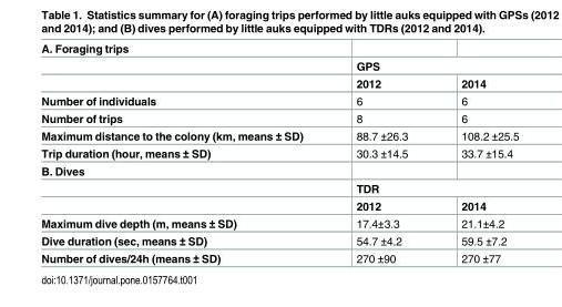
<table><tbody><tr><td colspan="3">A. Foraging trips</td></tr><tr><td></td><td colspan="2">GPS</td></tr><tr><td></td><td>2012</td><td>2014</td></tr><tr><td>Number of individuals</td><td>6</td><td>6</td></tr><tr><td>Number of trips</td><td>8</td><td>6</td></tr><tr><td>Maximum distance to the colony (km, means ± SD)</td><td>88.7 ±26.3</td><td>108.2 ±25.5</td></tr><tr><td>Trip duration (hour, means ± SD)</td><td>30.3 ±14.5</td><td>33.7 ±15.4</td></tr><tr><td colspan="3">B. Dives</td></tr><tr><td></td><td colspan="2">TDR</td></tr><tr><td></td><td>2012</td><td>2014</td></tr><tr><td>Maximum dive depth (m, means ± SD)</td><td>17.4±3.3</td><td>21.1±4.2</td></tr><tr><td>Dive duration (sec, means ± SD)</td><td>54.7 ±4.2</td><td>59.5 ±7.2</td></tr><tr><td>Number of dives/24h (means ± SD)</td><td>270 ±90</td><td>270 ±77</td></tr></tbody></table>